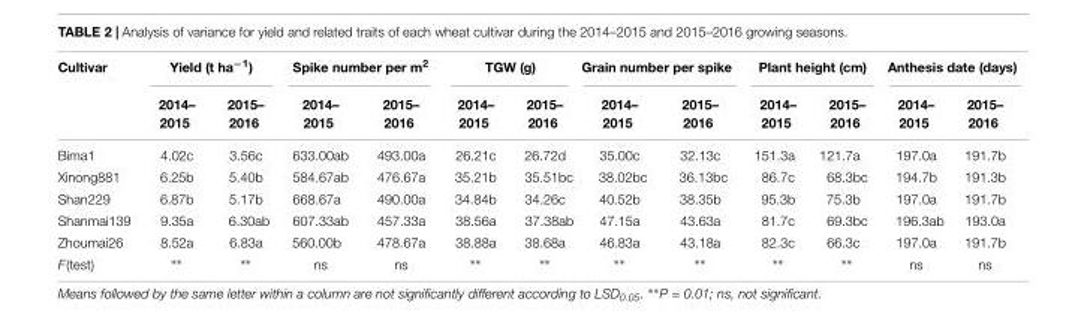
<table><thead><tr><td rowspan="2">Cultivar</td><td colspan="2">Yield (t ha<sup>−1</sup>)</td><td colspan="2">Spike number per m<sup>2</sup></td><td colspan="2">TGW (g)</td><td colspan="2">Grain number per spike</td><td colspan="2">Plant height (cm)</td><td colspan="2">Anthesis date (days)</td></tr><tr><td>2014– 2015</td><td>2015– 2016</td><td>2014– 2015</td><td>2015– 2016</td><td>2014– 2015</td><td>2015– 2016</td><td>2014– 2015</td><td>2015– 2016</td><td>2014– 2015</td><td>2015– 2016</td><td>2014– 2015</td><td>2015– 2016</td></tr></thead><tbody><tr><td>Bima1</td><td>4.02c</td><td>3.56c</td><td>633.00ab</td><td>493.00a</td><td>26.21c</td><td>26.72d</td><td>35.00c</td><td>32.13c</td><td>151.3a</td><td>121.7a</td><td>197.0a</td><td>191.7b</td></tr><tr><td>Xinong881</td><td>6.25b</td><td>5.40b</td><td>584.67ab</td><td>476.67a</td><td>35.21b</td><td>35.51bc</td><td>38.02bc</td><td>36.13bc</td><td>86.7c</td><td>68.3bc</td><td>194.7b</td><td>191.3b</td></tr><tr><td>Shan229</td><td>6.87b</td><td>5.17b</td><td>668.67a</td><td>490.00a</td><td>34.84b</td><td>34.26c</td><td>40.52b</td><td>38.35b</td><td>95.3b</td><td>75.3b</td><td>197.0a</td><td>191.7b</td></tr><tr><td>Shanmai139</td><td>9.35a</td><td>6.30ab</td><td>607.33ab</td><td>457.33a</td><td>38.56a</td><td>37.38ab</td><td>47.15a</td><td>43.63a</td><td>81.7c</td><td>69.3bc</td><td>196.3ab</td><td>193.0a</td></tr><tr><td>Zhoumai26</td><td>8.52a</td><td>6.83a</td><td>560.00b</td><td>478.67a</td><td>38.88a</td><td>38.68a</td><td>46.83a</td><td>43.18a</td><td>82.3c</td><td>66.3c</td><td>197.0a</td><td>191.7b</td></tr><tr><td>F(test)</td><td>∗∗</td><td>∗∗</td><td>ns</td><td>ns</td><td>∗∗</td><td>∗∗</td><td>∗∗</td><td>∗∗</td><td>∗∗</td><td>∗∗</td><td>ns</td><td>ns</td></tr></tbody></table>